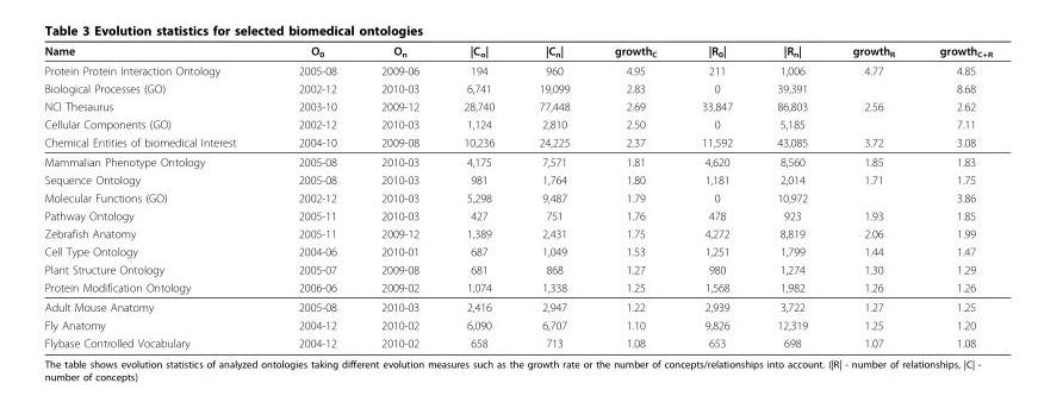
<table><thead><tr><td>Name</td><td>O<sub>0</sub></td><td>O<sub>n</sub></td><td>|C<sub>o</sub>|</td><td>|C<sub>n</sub>|</td><td>growth<sub>C</sub></td><td>|R<sub>0</sub>|</td><td>|R<sub>n</sub>|</td><td>growth<sub>R</sub></td><td>growth<sub>C+R</sub></td></tr></thead><tbody><tr><td>Protein Protein Interaction Ontology</td><td>2005-08</td><td>2009-06</td><td>194</td><td>960</td><td>4.95</td><td>211</td><td>1,006</td><td>4.77</td><td>4.85</td></tr><tr><td>Biological Processes (GO)</td><td>2002-12</td><td>2010-03</td><td>6,741</td><td>19,099</td><td>2.83</td><td>0</td><td>39,391</td><td></td><td>8.68</td></tr><tr><td>NCI Thesaurus</td><td>2003-10</td><td>2009-12</td><td>28,740</td><td>77,448</td><td>2.69</td><td>33,847</td><td>86,803</td><td>2.56</td><td>2.62</td></tr><tr><td>Cellular Components (GO)</td><td>2002-12</td><td>2010-03</td><td>1,124</td><td>2,810</td><td>2.50</td><td>0</td><td>5,185</td><td></td><td>7.11</td></tr><tr><td>Chemical Entities of biomedical Interest</td><td>2004-10</td><td>2009-08</td><td>10,236</td><td>24,225</td><td>2.37</td><td>11,592</td><td>43,085</td><td>3.72</td><td>3.08</td></tr><tr><td>Mammalian Phenotype Ontology</td><td>2005-08</td><td>2010-03</td><td>4,175</td><td>7,571</td><td>1.81</td><td>4,620</td><td>8,560</td><td>1.85</td><td>1.83</td></tr><tr><td>Sequence Ontology</td><td>2005-08</td><td>2010-03</td><td>981</td><td>1,764</td><td>1.80</td><td>1,181</td><td>2,014</td><td>1.71</td><td>1.75</td></tr><tr><td>Molecular Functions (GO)</td><td>2002-12</td><td>2010-03</td><td>5,298</td><td>9,487</td><td>1.79</td><td>0</td><td>10,972</td><td></td><td>3.86</td></tr><tr><td>Pathway Ontology</td><td>2005-11</td><td>2010-03</td><td>427</td><td>751</td><td>1.76</td><td>478</td><td>923</td><td>1.93</td><td>1.85</td></tr><tr><td>Zebrafish Anatomy</td><td>2005-11</td><td>2009-12</td><td>1,389</td><td>2,431</td><td>1.75</td><td>4,272</td><td>8,819</td><td>2.06</td><td>1.99</td></tr><tr><td>Cell Type Ontology</td><td>2004-06</td><td>2010-01</td><td>687</td><td>1,049</td><td>1.53</td><td>1,251</td><td>1,799</td><td>1.44</td><td>1.47</td></tr><tr><td>Plant Structure Ontology</td><td>2005-07</td><td>2009-08</td><td>681</td><td>868</td><td>1.27</td><td>980</td><td>1,274</td><td>1.30</td><td>1.29</td></tr><tr><td>Protein Modification Ontology</td><td>2006-06</td><td>2009-02</td><td>1,074</td><td>1,338</td><td>1.25</td><td>1,568</td><td>1,982</td><td>1.26</td><td>1.26</td></tr><tr><td>Adult Mouse Anatomy</td><td>2005-08</td><td>2010-03</td><td>2,416</td><td>2,947</td><td>1.22</td><td>2,939</td><td>3,722</td><td>1.27</td><td>1.25</td></tr><tr><td>Fly Anatomy</td><td>2004-12</td><td>2010-02</td><td>6,090</td><td>6,707</td><td>1.10</td><td>9,826</td><td>12,319</td><td>1.25</td><td>1.20</td></tr><tr><td>Flybase Controlled Vocabulary</td><td>2004-12</td><td>2010-02</td><td>658</td><td>713</td><td>1.08</td><td>653</td><td>698</td><td>1.07</td><td>1.08</td></tr></tbody></table>